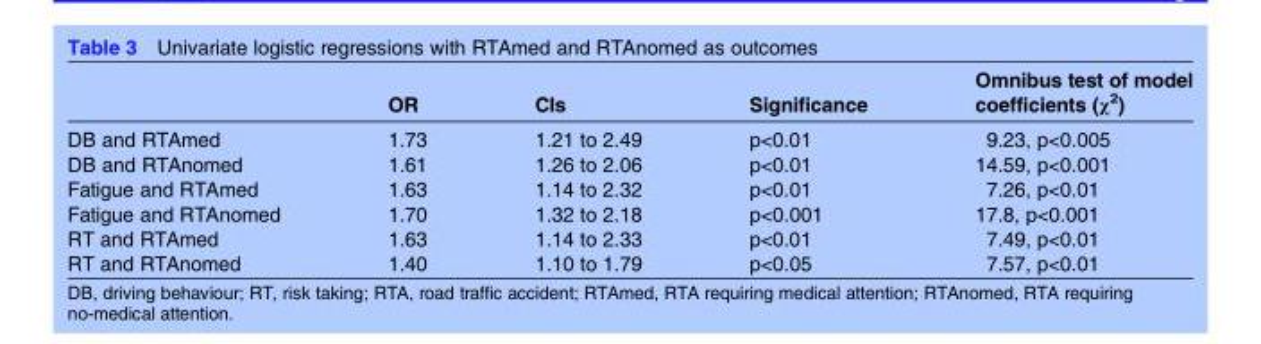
<table><thead><tr><td></td><td>OR</td><td>CIs</td><td>Significance</td><td>Omnibus test of model coefficients (χ<sup>2</sup>)</td></tr></thead><tbody><tr><td>DB and RTAmed</td><td>1.73</td><td>1.21 to 2.49</td><td>p&lt;0.01</td><td>9.23, p&lt;0.005</td></tr><tr><td>DB and RTAnomed</td><td>1.61</td><td>1.26 to 2.06</td><td>p&lt;0.01</td><td>14.59, p&lt;0.001</td></tr><tr><td>Fatigue and RTAmed</td><td>1.63</td><td>1.14 to 2.32</td><td>p&lt;0.01</td><td>7.26, p&lt;0.01</td></tr><tr><td>Fatigue and RTAnomed</td><td>1.70</td><td>1.32 to 2.18</td><td>p&lt;0.001</td><td>17.8, p&lt;0.001</td></tr><tr><td>RT and RTAmed</td><td>1.63</td><td>1.14 to 2.33</td><td>p&lt;0.01</td><td>7.49, p&lt;0.01</td></tr><tr><td>RT and RTAnomed</td><td>1.40</td><td>1.10 to 1.79</td><td>p&lt;0.05</td><td>7.57, p&lt;0.01</td></tr></tbody></table>